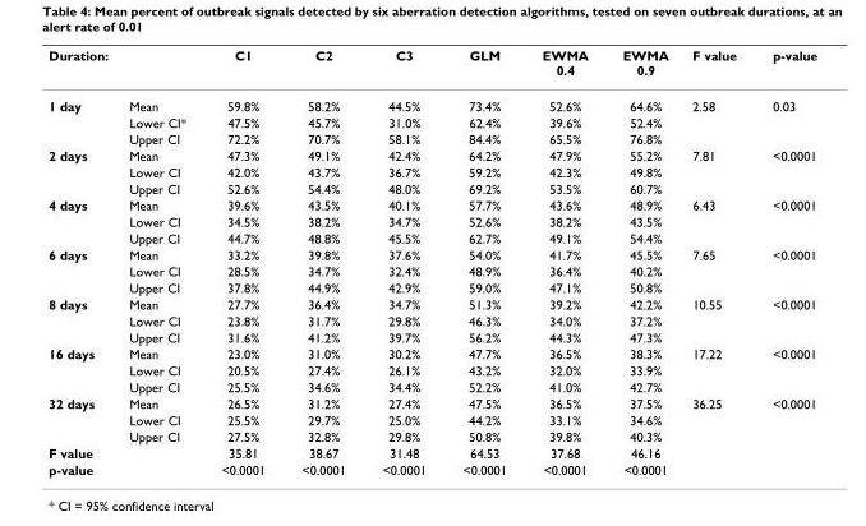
<table><thead><tr><td colspan="2">Duration:</td><td rowspan="2">C1 59.8%</td><td rowspan="2">C2 58.2%</td><td rowspan="2">C3 44.5%</td><td rowspan="2">GLM 73.4%</td><td rowspan="2">EWMA 0.4 52.6%</td><td rowspan="2">EWMA 0.9 64.6%</td><td rowspan="2">F value 2.58</td><td rowspan="2">p-value 0.03</td></tr><tr><td>1 day</td><td>Mean</td></tr></thead><tbody><tr><td></td><td>Lower CI*</td><td>47.5%</td><td>45.7%</td><td>31.0%</td><td>62.4%</td><td>39.6%</td><td>52.4%</td><td></td><td></td></tr><tr><td></td><td>Upper CI</td><td>72.2%</td><td>70.7%</td><td>58.1%</td><td>84.4%</td><td>65.5%</td><td>76.8%</td><td></td><td></td></tr><tr><td rowspan="3">2 days</td><td>Mean</td><td>47.3%</td><td>49.1%</td><td>42.4%</td><td>64.2%</td><td>47.9%</td><td>55.2%</td><td>7.81</td><td>&lt;0.0001</td></tr><tr><td>Lower CI</td><td>42.0%</td><td>43.7%</td><td>36.7%</td><td>59.2%</td><td>42.3%</td><td>49.8%</td><td></td><td></td></tr><tr><td>Upper CI</td><td>52.6%</td><td>54.4%</td><td>48.0%</td><td>69.2%</td><td>53.5%</td><td>60.7%</td><td></td><td></td></tr><tr><td rowspan="3">4 days</td><td>Mean</td><td>39.6%</td><td>43.5%</td><td>40.1%</td><td>57.7%</td><td>43.6%</td><td>48.9%</td><td>6.43</td><td>&lt;0.0001</td></tr><tr><td>Lower CI</td><td>34.5%</td><td>38.2%</td><td>34.7%</td><td>52.6%</td><td>38.2%</td><td>43.5%</td><td></td><td></td></tr><tr><td>Upper CI</td><td>44.7%</td><td>48.8%</td><td>45.5%</td><td>62.7%</td><td>49.1%</td><td>54.4%</td><td></td><td></td></tr><tr><td rowspan="3">6 days</td><td>Mean</td><td>33.2%</td><td>39.8%</td><td>37.6%</td><td>54.0%</td><td>41.7%</td><td>45.5%</td><td>7.65</td><td>&lt;0.0001</td></tr><tr><td>Lower CI</td><td>28.5%</td><td>34.7%</td><td>32.4%</td><td>48.9%</td><td>36.4%</td><td>40.2%</td><td></td><td></td></tr><tr><td>Upper CI</td><td>37.8%</td><td>44.9%</td><td>42.9%</td><td>59.0%</td><td>47.1%</td><td>50.8%</td><td></td><td></td></tr><tr><td rowspan="3">8 days</td><td>Mean</td><td>27.7%</td><td>36.4%</td><td>34.7%</td><td>51.3%</td><td>39.2%</td><td>42.2%</td><td>10.55</td><td>&lt;0.0001</td></tr><tr><td>Lower CI</td><td>23.8%</td><td>31.7%</td><td>29.8%</td><td>46.3%</td><td>34.0%</td><td>37.2%</td><td></td><td></td></tr><tr><td>Upper CI</td><td>31.6%</td><td>41.2%</td><td>39.7%</td><td>56.2%</td><td>44.3%</td><td>47.3%</td><td></td><td></td></tr><tr><td rowspan="3">16 days</td><td>Mean</td><td>23.0%</td><td>31.0%</td><td>30.2%</td><td>47.7%</td><td>36.5%</td><td>38.3%</td><td>17.22</td><td>&lt;0.0001</td></tr><tr><td>Lower CI</td><td>20.5%</td><td>27.4%</td><td>26.1%</td><td>43.2%</td><td>32.0%</td><td>33.9%</td><td></td><td></td></tr><tr><td>Upper CI</td><td>25.5%</td><td>34.6%</td><td>34.4%</td><td>52.2%</td><td>41.0%</td><td>42.7%</td><td></td><td></td></tr><tr><td rowspan="3">32 days</td><td>Mean</td><td>26.5%</td><td>31.2%</td><td>27.4%</td><td>47.5%</td><td>36.5%</td><td>37.5%</td><td>36.25</td><td>&lt;0.0001</td></tr><tr><td>Lower CI</td><td>25.5%</td><td>29.7%</td><td>25.0%</td><td>44.2%</td><td>33.1%</td><td>34.6%</td><td></td><td></td></tr><tr><td>Upper CI</td><td>27.5%</td><td>32.8%</td><td>29.8%</td><td>50.8%</td><td>39.8%</td><td>40.3%</td><td></td><td></td></tr><tr><td colspan="2">F value</td><td>35.81</td><td>38.67</td><td>31.48</td><td>64.53</td><td>37.68</td><td>46.16</td><td></td><td></td></tr><tr><td colspan="2">p-value</td><td>&lt;0.0001</td><td>&lt;0.0001</td><td>&lt;0.0001</td><td>&lt;0.0001</td><td>&lt;0.0001</td><td>&lt;0.0001</td><td></td><td></td></tr></tbody></table>